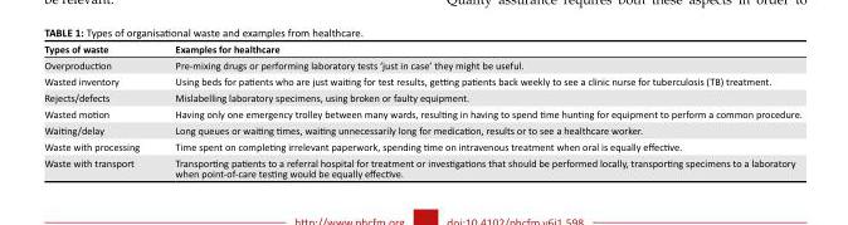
<table><thead><tr><td>Types of waste</td><td>Examples for healthcare</td></tr></thead><tbody><tr><td>Overproduction</td><td>Pre-mixing drugs or performing laboratory tests ‘just in case’ they might be useful.</td></tr><tr><td>Wasted inventory</td><td>Using beds for patients who are just waiting for test results, getting patients back weekly to see a clinic nurse for tuberculosis (TB) treatment.</td></tr><tr><td>Rejects/defects</td><td>Mislabelling laboratory specimens, using broken or faulty equipment.</td></tr><tr><td>Wasted motion</td><td>Having only one emergency trolley between many wards, resulting in having to spend time hunting for equipment to perform a common procedure.</td></tr><tr><td>Waiting/delay</td><td>Long queues or waiting times, waiting unnecessarily long for medication, results or to see a healthcare worker.</td></tr><tr><td>Waste with processing</td><td>Time spent on completing irrelevant paperwork, spending time on intravenous treatment when oral is equally effective.</td></tr><tr><td>Waste with transport</td><td>Transporting patients to a referral hospital for treatment or investigations that should be performed locally, transporting specimens to a laboratory when point-of-care testing would be equally effective.</td></tr></tbody></table>